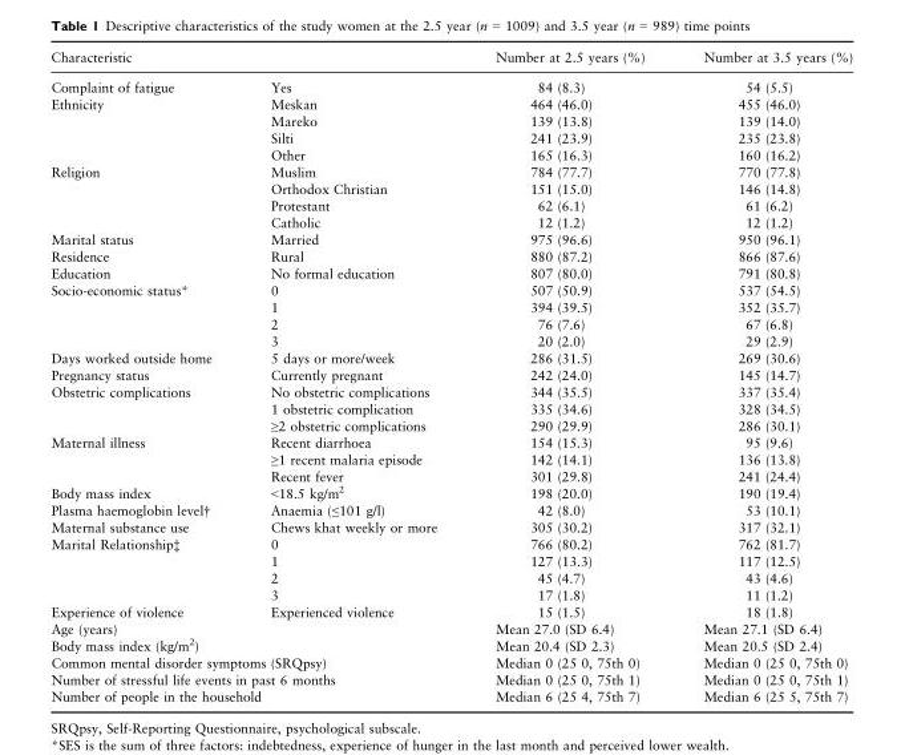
<table><thead><tr><td colspan="2">Characteristic</td><td rowspan="2">Number at 2.5 years (%) 84 (8.3)</td><td rowspan="2">Number at 3.5 years (%) 54 (5.5)</td></tr><tr><td>Complaint of fatigue</td><td>Yes</td></tr></thead><tbody><tr><td rowspan="4">Ethnicity</td><td>Meskan</td><td>464 (46.0)</td><td>455 (46.0)</td></tr><tr><td>Mareko</td><td>139 (13.8)</td><td>139 (14.0)</td></tr><tr><td>Silti</td><td>241 (23.9)</td><td>235 (23.8)</td></tr><tr><td>Other</td><td>165 (16.3)</td><td>160 (16.2)</td></tr><tr><td rowspan="4">Religion</td><td>Muslim</td><td>784 (77.7)</td><td>770 (77.8)</td></tr><tr><td>Orthodox Christian</td><td>151 (15.0)</td><td>146 (14.8)</td></tr><tr><td>Protestant</td><td>62 (6.1)</td><td>61 (6.2)</td></tr><tr><td>Catholic</td><td>12 (1.2)</td><td>12 (1.2)</td></tr><tr><td>Marital status</td><td>Married</td><td>975 (96.6)</td><td>950 (96.1)</td></tr><tr><td>Residence</td><td>Rural</td><td>880 (87.2)</td><td>866 (87.6)</td></tr><tr><td>Education</td><td>No formal education</td><td>807 (80.0)</td><td>791 (80.8)</td></tr><tr><td rowspan="4">Socio-economic status*</td><td>0</td><td>507 (50.9)</td><td>537 (54.5)</td></tr><tr><td>1</td><td>394 (39.5)</td><td>352 (35.7)</td></tr><tr><td>2</td><td>76 (7.6)</td><td>67 (6.8)</td></tr><tr><td>3</td><td>20 (2.0)</td><td>29 (2.9)</td></tr><tr><td>Days worked outside home</td><td>5 days or more/week</td><td>286 (31.5)</td><td>269 (30.6)</td></tr><tr><td>Pregnancy status</td><td>Currently pregnant</td><td>242 (24.0)</td><td>145 (14.7)</td></tr><tr><td rowspan="3">Obstetric complications</td><td>No obstetric complications</td><td>344 (35.5)</td><td>337 (35.4)</td></tr><tr><td>1 obstetric complication</td><td>335 (34.6)</td><td>328 (34.5)</td></tr><tr><td>≥2 obstetric complications</td><td>290 (29.9)</td><td>286 (30.1)</td></tr><tr><td rowspan="3">Maternal illness</td><td>Recent diarrhoea</td><td>154 (15.3)</td><td>95 (9.6)</td></tr><tr><td>≥1 recent malaria episode</td><td>142 (14.1)</td><td>136 (13.8)</td></tr><tr><td>Recent fever</td><td>301 (29.8)</td><td>241 (24.4)</td></tr><tr><td>Body mass index</td><td>&lt;18.5 kg/m<sup>2</sup></td><td>198 (20.0)</td><td>190 (19.4)</td></tr><tr><td>Plasma haemoglobin level†</td><td>Anaemia (≤101 g/l)</td><td>42 (8.0)</td><td>53 (10.1)</td></tr><tr><td>Maternal substance use</td><td>Chews khat weekly or more</td><td>305 (30.2)</td><td>317 (32.1)</td></tr><tr><td rowspan="4">Marital Relationship‡</td><td>0</td><td>766 (80.2)</td><td>762 (81.7)</td></tr><tr><td>1</td><td>127 (13.3)</td><td>117 (12.5)</td></tr><tr><td>2</td><td>45 (4.7)</td><td>43 (4.6)</td></tr><tr><td>3</td><td>17 (1.8)</td><td>11 (1.2)</td></tr><tr><td>Experience of violence</td><td>Experienced violence</td><td>15 (1.5)</td><td>18 (1.8)</td></tr><tr><td colspan="2">Age (years)</td><td>Mean 27.0 (SD 6.4)</td><td>Mean 27.1 (SD 6.4)</td></tr><tr><td colspan="2">Body mass index (kg/m<sup>2</sup>)</td><td>Mean 20.4 (SD 2.3)</td><td>Mean 20.5 (SD 2.4)</td></tr><tr><td colspan="2">Common mental disorder symptoms (SRQpsy)</td><td>Median 0 (25 0, 75th 0)</td><td>Median 0 (25 0, 75th 0)</td></tr><tr><td colspan="2">Number of stressful life events in past 6 months</td><td>Median 0 (25 0, 75th 1)</td><td>Median 0 (25 0, 75th 1)</td></tr><tr><td colspan="2">Number of people in the household</td><td>Median 6 (25 4, 75th 7)</td><td>Median 6 (25 5, 75th 7)</td></tr></tbody></table>